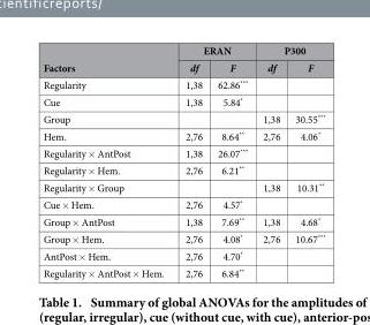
<table><thead><tr><td rowspan="2">Factors</td><td colspan="2">ERAN</td><td colspan="2">P300</td></tr><tr><td>df</td><td>F</td><td>df</td><td>F</td></tr></thead><tbody><tr><td>Regularity</td><td>1,38</td><td>62.86***</td><td></td><td></td></tr><tr><td>Cue</td><td>1,38</td><td>5.84*</td><td></td><td></td></tr><tr><td>Group</td><td></td><td></td><td>1,38</td><td>30.55***</td></tr><tr><td>Hem.</td><td>2,76</td><td>8.64**</td><td>2,76</td><td>4.06*</td></tr><tr><td>Regularity × AntPost</td><td>1,38</td><td>26.07***</td><td></td><td></td></tr><tr><td>Regularity × Hem.</td><td>2,76</td><td>6.21**</td><td></td><td></td></tr><tr><td>Regularity × Group</td><td></td><td></td><td>1,38</td><td>10.31**</td></tr><tr><td>Cue × Hem.</td><td>2,76</td><td>4.57*</td><td></td><td></td></tr><tr><td>Group × AntPost</td><td>1,38</td><td>7.69**</td><td>1,38</td><td>4.68*</td></tr><tr><td>Group × Hem.</td><td>2,76</td><td>4.08*</td><td>2,76</td><td>10.67***</td></tr><tr><td>AntPost × Hem.</td><td>2,76</td><td>4.70*</td><td></td><td></td></tr><tr><td>Regularity × AntPost × Hem.</td><td>2,76</td><td>6.84**</td><td></td><td></td></tr></tbody></table>